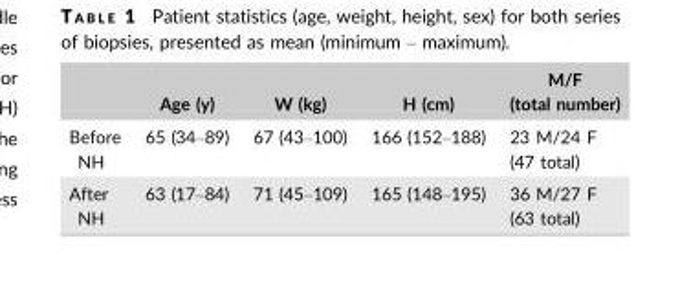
<table><thead><tr><td></td><td>Age (y)</td><td>W (kg)</td><td>H (cm)</td><td>M/F (total number)</td></tr></thead><tbody><tr><td>Before NH</td><td>65 (34–89)</td><td>67 (43–100)</td><td>166 (152–188)</td><td>23 M/24 F (47 total)</td></tr><tr><td>After NH</td><td>63 (17–84)</td><td>71 (45–109)</td><td>165 (148–195)</td><td>36 M/27 F (63 total)</td></tr></tbody></table>